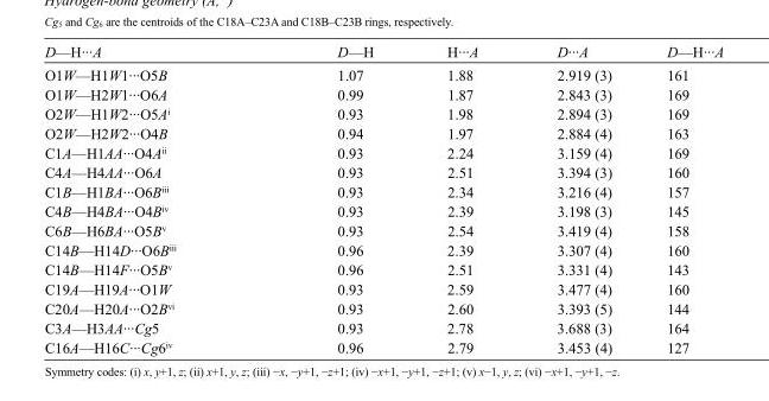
<table><tbody><tr><td>D—H···A</td><td>D—H</td><td>H···A</td><td>D···A</td><td>D—H···A</td></tr><tr><td>O1W—H1W1···O5B</td><td>1.07</td><td>1.88</td><td>2.919 (3)</td><td>161</td></tr><tr><td>O1W—H2W1···O6A</td><td>0.99</td><td>1.87</td><td>2.843 (3)</td><td>169</td></tr><tr><td>O2W—H1W2···O5A<sup>i</sup></td><td>0.93</td><td>1.98</td><td>2.894 (3)</td><td>169</td></tr><tr><td>O2W—H2W2···O4B</td><td>0.94</td><td>1.97</td><td>2.884 (4)</td><td>163</td></tr><tr><td>C1A—H1AA···O4A<sup>ii</sup></td><td>0.93</td><td>2.24</td><td>3.159 (4)</td><td>169</td></tr><tr><td>C4A—H4AA···O6A</td><td>0.93</td><td>2.51</td><td>3.394 (3)</td><td>160</td></tr><tr><td>C1B—H1BA···O6B<sup>iii</sup></td><td>0.93</td><td>2.34</td><td>3.216 (4)</td><td>157</td></tr><tr><td>C4B—H4BA···O4B<sup>iv</sup></td><td>0.93</td><td>2.39</td><td>3.198 (3)</td><td>145</td></tr><tr><td>C6B—H6BA···O5B<sup>v</sup></td><td>0.93</td><td>2.54</td><td>3.419 (4)</td><td>158</td></tr><tr><td>C14B—H14D···O6B<sup>iii</sup></td><td>0.96</td><td>2.39</td><td>3.307 (4)</td><td>160</td></tr><tr><td>C14B—H14F···O5B<sup>v</sup></td><td>0.96</td><td>2.51</td><td>3.331 (4)</td><td>143</td></tr><tr><td>C19A—H19A···O1W</td><td>0.93</td><td>2.59</td><td>3.477 (4)</td><td>160</td></tr><tr><td>C20A—H20A···O2B<sup>vi</sup></td><td>0.93</td><td>2.60</td><td>3.393 (5)</td><td>144</td></tr><tr><td>C3A—H3AA···Cg5</td><td>0.93</td><td>2.78</td><td>3.688 (3)</td><td>164</td></tr><tr><td>C16A—H16C···Cg6<sup>iv</sup></td><td>0.96</td><td>2.79</td><td>3.453 (4)</td><td>127</td></tr></tbody></table>